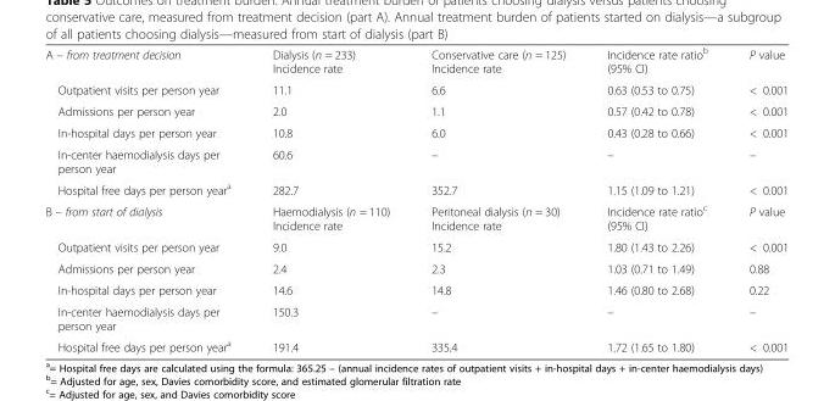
<table><tbody><tr><td>A – from treatment decision</td><td>Dialysis (n = 233) Incidence rate</td><td>Conservative care (n = 125) Incidence rate</td><td>Incidence rate ratio<sup>b</sup> (95% CI)</td><td>P value</td></tr><tr><td>Outpatient visits per person year</td><td>11.1</td><td>6.6</td><td>0.63 (0.53 to 0.75)</td><td>&lt; 0.001</td></tr><tr><td>Admissions per person year</td><td>2.0</td><td>1.1</td><td>0.57 (0.42 to 0.78)</td><td>&lt; 0.001</td></tr><tr><td>In-hospital days per person year</td><td>10.8</td><td>6.0</td><td>0.43 (0.28 to 0.66)</td><td>&lt; 0.001</td></tr><tr><td>In-center haemodialysis days per person year</td><td>60.6</td><td>–</td><td>–</td><td>–</td></tr><tr><td>Hospital free days per person year<sup>a</sup></td><td>282.7</td><td>352.7</td><td>1.15 (1.09 to 1.21)</td><td>&lt; 0.001</td></tr><tr><td>B – from start of dialysis</td><td>Haemodialysis (n = 110) Incidence rate</td><td>Peritoneal dialysis (n = 30) Incidence rate</td><td>Incidence rate ratio<sup>c</sup> (95% CI)</td><td>P value</td></tr><tr><td>Outpatient visits per person year</td><td>9.0</td><td>15.2</td><td>1.80 (1.43 to 2.26)</td><td>&lt; 0.001</td></tr><tr><td>Admissions per person year</td><td>2.4</td><td>2.3</td><td>1.03 (0.71 to 1.49)</td><td>0.88</td></tr><tr><td>In-hospital days per person year</td><td>14.6</td><td>14.8</td><td>1.46 (0.80 to 2.68)</td><td>0.22</td></tr><tr><td>In-center haemodialysis days per person year</td><td>150.3</td><td>–</td><td>–</td><td>–</td></tr><tr><td>Hospital free days per person year<sup>a</sup></td><td>191.4</td><td>335.4</td><td>1.72 (1.65 to 1.80)</td><td>&lt; 0.001</td></tr></tbody></table>